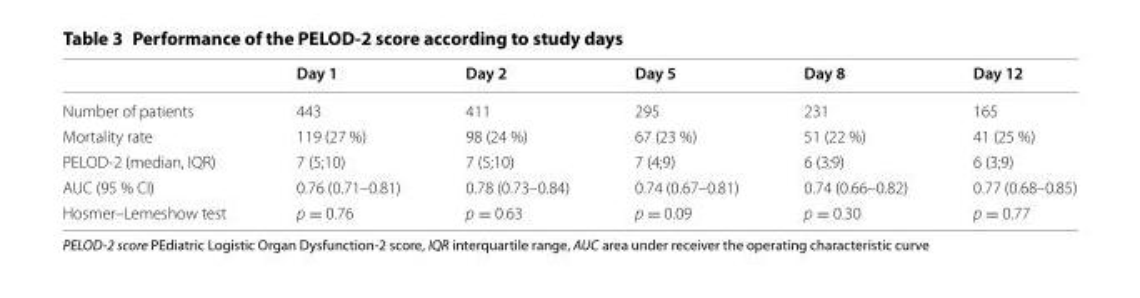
<table><thead><tr><td></td><td>Day 1</td><td>Day 2</td><td>Day 5</td><td>Day 8</td><td>Day 12</td></tr></thead><tbody><tr><td>Number of patients</td><td>443</td><td>411</td><td>295</td><td>231</td><td>165</td></tr><tr><td>Mortality rate</td><td>119 (27 %)</td><td>98 (24 %)</td><td>67 (23 %)</td><td>51 (22 %)</td><td>41 (25 %)</td></tr><tr><td>PELOD-2 (median, IQR)</td><td>7 (5;10)</td><td>7 (5;10)</td><td>7 (4;9)</td><td>6 (3;9)</td><td>6 (3;9)</td></tr><tr><td>AUC (95 % CI)</td><td>0.76 (0.71–0.81)</td><td>0.78 (0.73–0.84)</td><td>0.74 (0.67–0.81)</td><td>0.74 (0.66–0.82)</td><td>0.77 (0.68–0.85)</td></tr><tr><td>Hosmer–Lemeshow test</td><td>p = 0.76</td><td>p = 0.63</td><td>p = 0.09</td><td>p = 0.30</td><td>p = 0.77</td></tr></tbody></table>